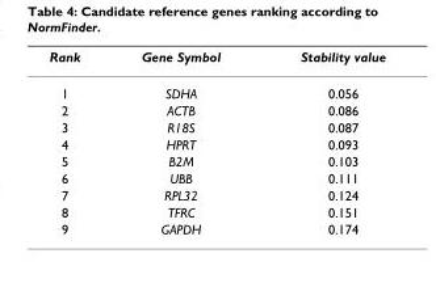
<table><thead><tr><td>Rank</td><td>Gene Symbol</td><td>Stability value</td></tr></thead><tbody><tr><td>1</td><td>SDHA</td><td>0.056</td></tr><tr><td>2</td><td>ACTB</td><td>0.086</td></tr><tr><td>3</td><td>R18S</td><td>0.087</td></tr><tr><td>4</td><td>HPRT</td><td>0.093</td></tr><tr><td>5</td><td>B2M</td><td>0.103</td></tr><tr><td>6</td><td>UBB</td><td>0.111</td></tr><tr><td>7</td><td>RPL32</td><td>0.124</td></tr><tr><td>8</td><td>TFRC</td><td>0.151</td></tr><tr><td>9</td><td>GAPDH</td><td>0.174</td></tr></tbody></table>